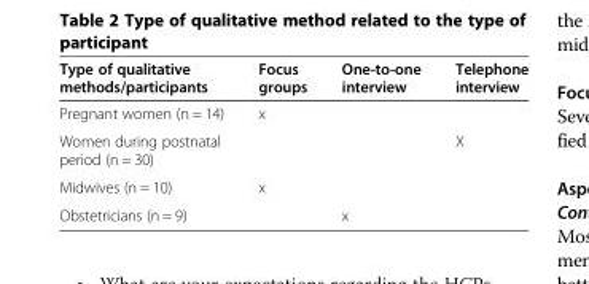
<table><thead><tr><td>Type of qualitative methods/participants</td><td>Focus groups</td><td>One-to-one interview</td><td>Telephone interview</td></tr></thead><tbody><tr><td>Pregnant women (n = 14)</td><td>x</td><td></td><td></td></tr><tr><td>Women during postnatal period (n = 30)</td><td></td><td></td><td>X</td></tr><tr><td>Midwives (n = 10)</td><td>x</td><td></td><td></td></tr><tr><td>Obstetricians (n = 9)</td><td></td><td>x</td><td></td></tr></tbody></table>